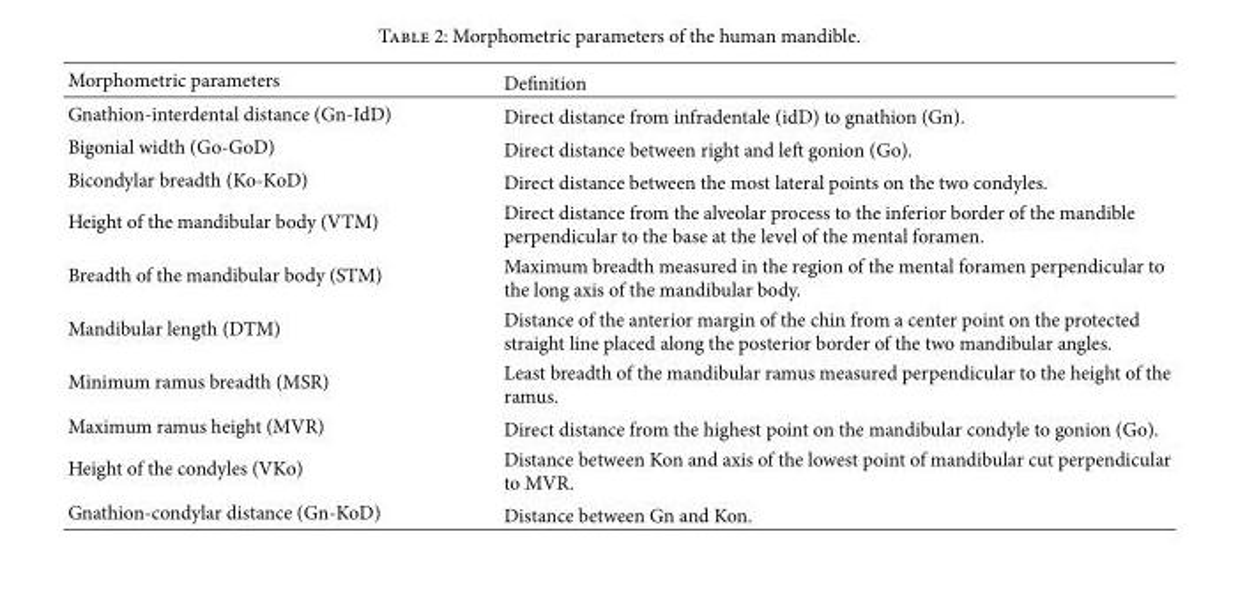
<table><thead><tr><td>Morphometric parameters</td><td>Definition</td></tr></thead><tbody><tr><td>Gnathion-interdental distance (Gn-IdD)</td><td>Direct distance from infradentale (idD) to gnathion (Gn).</td></tr><tr><td>Bigonial width (Go-GoD)</td><td>Direct distance between right and left gonion (Go).</td></tr><tr><td>Bicondylar breadth (Ko-KoD)</td><td>Direct distance between the most lateral points on the two condyles.</td></tr><tr><td>Height of the mandibular body (VTM)</td><td>Direct distance from the alveolar process to the inferior border of the mandible perpendicular to the base at the level of the mental foramen.</td></tr><tr><td>Breadth of the mandibular body (STM)</td><td>Maximum breadth measured in the region of the mental foramen perpendicular to the long axis of the mandibular body.</td></tr><tr><td>Mandibular length (DTM)</td><td>Distance of the anterior margin of the chin from a center point on the protected straight line placed along the posterior border of the two mandibular angles.</td></tr><tr><td>Minimum ramus breadth (MSR)</td><td>Least breadth of the mandibular ramus measured perpendicular to the height of the ramus.</td></tr><tr><td>Maximum ramus height (MVR)</td><td>Direct distance from the highest point on the mandibular condyle to gonion (Go).</td></tr><tr><td>Height of the condyles (VKo)</td><td>Distance between Kon and axis of the lowest point of mandibular cut perpendicular to MVR.</td></tr><tr><td>Gnathion-condylar distance (Gn-KoD)</td><td>Distance between Gn and Kon.</td></tr></tbody></table>